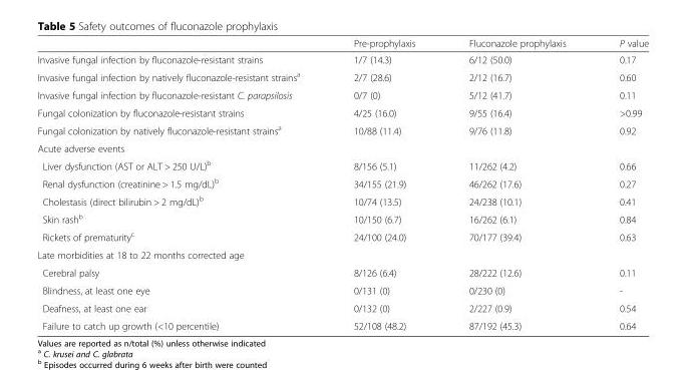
<table><thead><tr><td></td><td>Pre-prophylaxis</td><td>Fluconazole prophylaxis</td><td>P value</td></tr></thead><tbody><tr><td>Invasive fungal infection by fluconazole-resistant strains</td><td>1/7 (14.3)</td><td>6/12 (50.0)</td><td>0.17</td></tr><tr><td>Invasive fungal infection by natively fluconazole-resistant strains<sup>a</sup></td><td>2/7 (28.6)</td><td>2/12 (16.7)</td><td>0.60</td></tr><tr><td>Invasive fungal infection by fluconazole-resistant C. parapsilosis</td><td>0/7 (0)</td><td>5/12 (41.7)</td><td>0.11</td></tr><tr><td>Fungal colonization by fluconazole-resistant strains</td><td>4/25 (16.0)</td><td>9/55 (16.4)</td><td>&gt;0.99</td></tr><tr><td>Fungal colonization by natively fluconazole-resistant strains<sup>a</sup></td><td>10/88 (11.4)</td><td>9/76 (11.8)</td><td>0.92</td></tr><tr><td colspan="4">Acute adverse events</td></tr><tr><td>Liver dysfunction (AST or ALT &gt; 250 U/L)<sup>b</sup></td><td>8/156 (5.1)</td><td>11/262 (4.2)</td><td>0.66</td></tr><tr><td>Renal dysfunction (creatinine &gt; 1.5 mg/dL)<sup>b</sup></td><td>34/155 (21.9)</td><td>46/262 (17.6)</td><td>0.27</td></tr><tr><td>Cholestasis (direct bilirubin &gt; 2 mg/dL)<sup>b</sup></td><td>10/74 (13.5)</td><td>24/238 (10.1)</td><td>0.41</td></tr><tr><td>Skin rash<sup>b</sup></td><td>10/150 (6.7)</td><td>16/262 (6.1)</td><td>0.84</td></tr><tr><td>Rickets of prematurity<sup>c</sup></td><td>24/100 (24.0)</td><td>70/177 (39.4)</td><td>0.63</td></tr><tr><td colspan="4">Late morbidities at 18 to 22 months corrected age</td></tr><tr><td>Cerebral palsy</td><td>8/126 (6.4)</td><td>28/222 (12.6)</td><td>0.11</td></tr><tr><td>Blindness, at least one eye</td><td>0/131 (0)</td><td>0/230 (0)</td><td>-</td></tr><tr><td>Deafness, at least one ear</td><td>0/132 (0)</td><td>2/227 (0.9)</td><td>0.54</td></tr><tr><td>Failure to catch up growth (&lt;10 percentile)</td><td>52/108 (48.2)</td><td>87/192 (45.3)</td><td>0.64</td></tr></tbody></table>